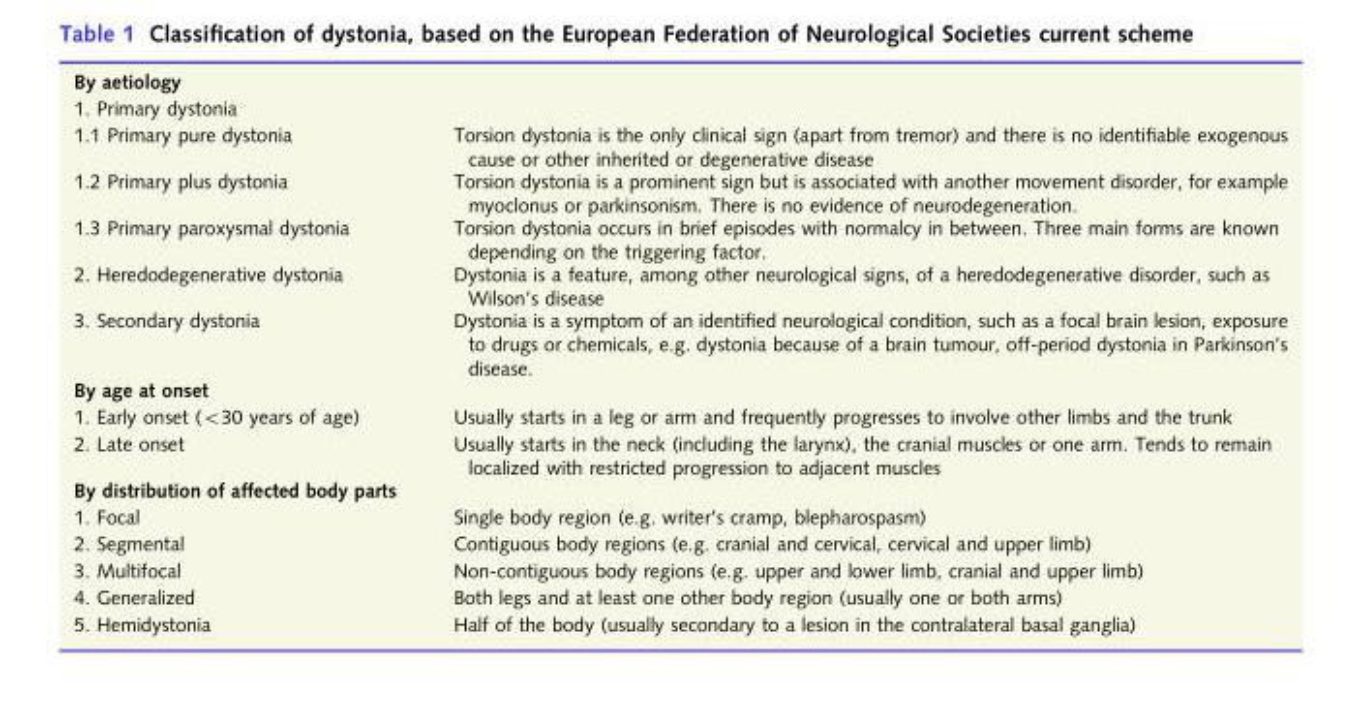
<table><tbody><tr><td colspan="2">By aetiology</td></tr><tr><td colspan="2">1. Primary dystonia</td></tr><tr><td>1.1 Primary pure dystonia</td><td>Torsion dystonia is the only clinical sign (apart from tremor) and there is no identifiable exogenous cause or other inherited or degenerative disease</td></tr><tr><td>1.2 Primary plus dystonia</td><td>Torsion dystonia is a prominent sign but is associated with another movement disorder, for example myoclonus or parkinsonism. There is no evidence of neurodegeneration.</td></tr><tr><td>1.3 Primary paroxysmal dystonia</td><td>Torsion dystonia occurs in brief episodes with normalcy in between. Three main forms are known depending on the triggering factor.</td></tr><tr><td>2. Heredodegenerative dystonia</td><td>Dystonia is a feature, among other neurological signs, of a heredodegenerative disorder, such as Wilson’s disease</td></tr><tr><td>3. Secondary dystonia</td><td>Dystonia is a symptom of an identified neurological condition, such as a focal brain lesion, exposure to drugs or chemicals, e.g. dystonia because of a brain tumour, off-period dystonia in Parkinson’s disease.</td></tr><tr><td colspan="2">By age at onset</td></tr><tr><td>1. Early onset (&lt;30 years of age)</td><td>Usually starts in a leg or arm and frequently progresses to involve other limbs and the trunk</td></tr><tr><td>2. Late onset</td><td>Usually starts in the neck (including the larynx), the cranial muscles or one arm. Tends to remain localized with restricted progression to adjacent muscles</td></tr><tr><td colspan="2">By distribution of affected body parts</td></tr><tr><td>1. Focal</td><td>Single body region (e.g. writer’s cramp, blepharospasm)</td></tr><tr><td>2. Segmental</td><td>Contiguous body regions (e.g. cranial and cervical, cervical and upper limb)</td></tr><tr><td>3. Multifocal</td><td>Non-contiguous body regions (e.g. upper and lower limb, cranial and upper limb)</td></tr><tr><td>4. Generalized</td><td>Both legs and at least one other body region (usually one or both arms)</td></tr><tr><td>5. Hemidystonia</td><td>Half of the body (usually secondary to a lesion in the contralateral basal ganglia)</td></tr></tbody></table>